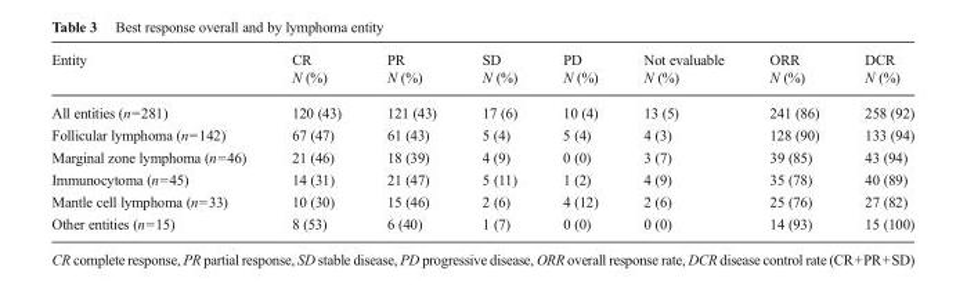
<table><thead><tr><td>Entity</td><td>CR N (%)</td><td>PR N (%)</td><td>SD N (%)</td><td>PD N (%)</td><td>Not evaluable N (%)</td><td>ORR N (%)</td><td>DCR N (%)</td></tr></thead><tbody><tr><td>All entities (n=281)</td><td>120 (43)</td><td>121 (43)</td><td>17 (6)</td><td>10 (4)</td><td>13 (5)</td><td>241 (86)</td><td>258 (92)</td></tr><tr><td>Follicular lymphoma (n=142)</td><td>67 (47)</td><td>61 (43)</td><td>5 (4)</td><td>5 (4)</td><td>4 (3)</td><td>128 (90)</td><td>133 (94)</td></tr><tr><td>Marginal zone lymphoma (n=46)</td><td>21 (46)</td><td>18 (39)</td><td>4 (9)</td><td>0 (0)</td><td>3 (7)</td><td>39 (85)</td><td>43 (94)</td></tr><tr><td>Immunocytoma (n=45)</td><td>14 (31)</td><td>21 (47)</td><td>5 (11)</td><td>1 (2)</td><td>4 (9)</td><td>35 (78)</td><td>40 (89)</td></tr><tr><td>Mantle cell lymphoma (n=33)</td><td>10 (30)</td><td>15 (46)</td><td>2 (6)</td><td>4 (12)</td><td>2 (6)</td><td>25 (76)</td><td>27 (82)</td></tr><tr><td>Other entities (n=15)</td><td>8 (53)</td><td>6 (40)</td><td>1 (7)</td><td>0 (0)</td><td>0 (0)</td><td>14 (93)</td><td>15 (100)</td></tr></tbody></table>